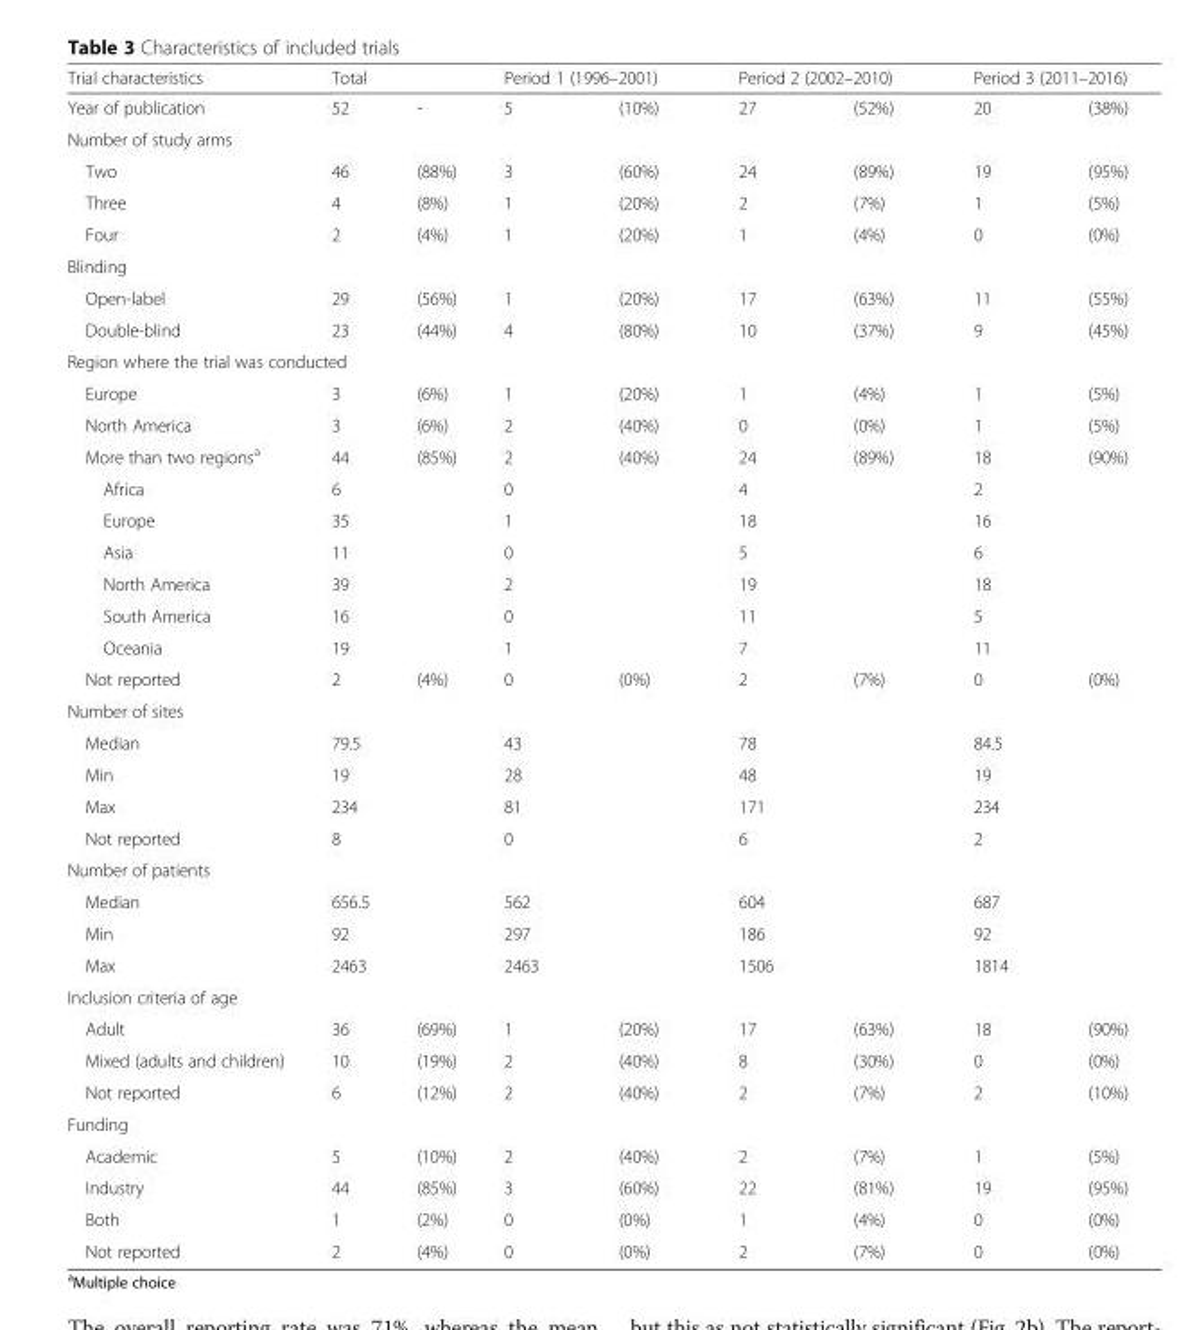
<table><thead><tr><td rowspan="2">Trial characteristics Year of publication</td><td colspan="2">Total</td><td colspan="2">Period 1 (1996–2001)</td><td colspan="2">Period 2 (2002–2010)</td><td colspan="2">Period 3 (2011–2016)</td></tr><tr><td>52</td><td>-</td><td>5</td><td>(10%)</td><td>27</td><td>(52%)</td><td>20</td><td>(38%)</td></tr></thead><tbody><tr><td colspan="9">Number of study arms</td></tr><tr><td>Two</td><td>46</td><td>(88%)</td><td>3</td><td>(60%)</td><td>24</td><td>(89%)</td><td>19</td><td>(95%)</td></tr><tr><td>Three</td><td>4</td><td>(8%)</td><td>1</td><td>(20%)</td><td>2</td><td>(7%)</td><td>1</td><td>(5%)</td></tr><tr><td>Four</td><td>2</td><td>(4%)</td><td>1</td><td>(20%)</td><td>1</td><td>(4%)</td><td>0</td><td>(0%)</td></tr><tr><td colspan="9">Blinding</td></tr><tr><td>Open-label</td><td>29</td><td>(56%)</td><td>1</td><td>(20%)</td><td>17</td><td>(63%)</td><td>11</td><td>(55%)</td></tr><tr><td>Double-blind</td><td>23</td><td>(44%)</td><td>4</td><td>(80%)</td><td>10</td><td>(37%)</td><td>9</td><td>(45%)</td></tr><tr><td colspan="9">Region where the trial was conducted</td></tr><tr><td>Europe</td><td>3</td><td>(6%)</td><td>1</td><td>(20%)</td><td>1</td><td>(4%)</td><td>1</td><td>(5%)</td></tr><tr><td>North America</td><td>3</td><td>(6%)</td><td>2</td><td>(40%)</td><td>0</td><td>(0%)</td><td>1</td><td>(5%)</td></tr><tr><td>More than two regions<sup>a</sup></td><td>44</td><td>(85%)</td><td>2</td><td>(40%)</td><td>24</td><td>(89%)</td><td>18</td><td>(90%)</td></tr><tr><td>Africa</td><td>6</td><td></td><td>0</td><td></td><td>4</td><td></td><td>2</td><td></td></tr><tr><td>Europe</td><td>35</td><td></td><td>1</td><td></td><td>18</td><td></td><td>16</td><td></td></tr><tr><td>Asia</td><td>11</td><td></td><td>0</td><td></td><td>5</td><td></td><td>6</td><td></td></tr><tr><td>North America</td><td>39</td><td></td><td>2</td><td></td><td>19</td><td></td><td>18</td><td></td></tr><tr><td>South America</td><td>16</td><td></td><td>0</td><td></td><td>11</td><td></td><td>5</td><td></td></tr><tr><td>Oceania</td><td>19</td><td></td><td>1</td><td></td><td>7</td><td></td><td>11</td><td></td></tr><tr><td>Not reported</td><td>2</td><td>(4%)</td><td>0</td><td>(0%)</td><td>2</td><td>(7%)</td><td>0</td><td>(0%)</td></tr><tr><td colspan="9">Number of sites</td></tr><tr><td>Median</td><td>79.5</td><td></td><td>43</td><td></td><td>78</td><td></td><td>84.5</td><td></td></tr><tr><td>Min</td><td>19</td><td></td><td>28</td><td></td><td>48</td><td></td><td>19</td><td></td></tr><tr><td>Max</td><td>234</td><td></td><td>81</td><td></td><td>171</td><td></td><td>234</td><td></td></tr><tr><td>Not reported</td><td>8</td><td></td><td>0</td><td></td><td>6</td><td></td><td>2</td><td></td></tr><tr><td colspan="9">Number of patients</td></tr><tr><td>Median</td><td>656.5</td><td></td><td>562</td><td></td><td>604</td><td></td><td>687</td><td></td></tr><tr><td>Min</td><td>92</td><td></td><td>297</td><td></td><td>186</td><td></td><td>92</td><td></td></tr><tr><td>Max</td><td>2463</td><td></td><td>2463</td><td></td><td>1506</td><td></td><td>1814</td><td></td></tr><tr><td colspan="9">Inclusion criteria of age</td></tr><tr><td>Adult</td><td>36</td><td>(69%)</td><td>1</td><td>(20%)</td><td>17</td><td>(63%)</td><td>18</td><td>(90%)</td></tr><tr><td>Mixed (adults and children)</td><td>10</td><td>(19%)</td><td>2</td><td>(40%)</td><td>8</td><td>(30%)</td><td>0</td><td>(0%)</td></tr><tr><td>Not reported</td><td>6</td><td>(12%)</td><td>2</td><td>(40%)</td><td>2</td><td>(7%)</td><td>2</td><td>(10%)</td></tr><tr><td colspan="9">Funding</td></tr><tr><td>Academic</td><td>5</td><td>(10%)</td><td>2</td><td>(40%)</td><td>2</td><td>(7%)</td><td>1</td><td>(5%)</td></tr><tr><td>Industry</td><td>44</td><td>(85%)</td><td>3</td><td>(60%)</td><td>22</td><td>(81%)</td><td>19</td><td>(95%)</td></tr><tr><td>Both</td><td>1</td><td>(2%)</td><td>0</td><td>(0%)</td><td>1</td><td>(4%)</td><td>0</td><td>(0%)</td></tr><tr><td>Not reported</td><td>2</td><td>(4%)</td><td>0</td><td>(0%)</td><td>2</td><td>(7%)</td><td>0</td><td>(0%)</td></tr></tbody></table>